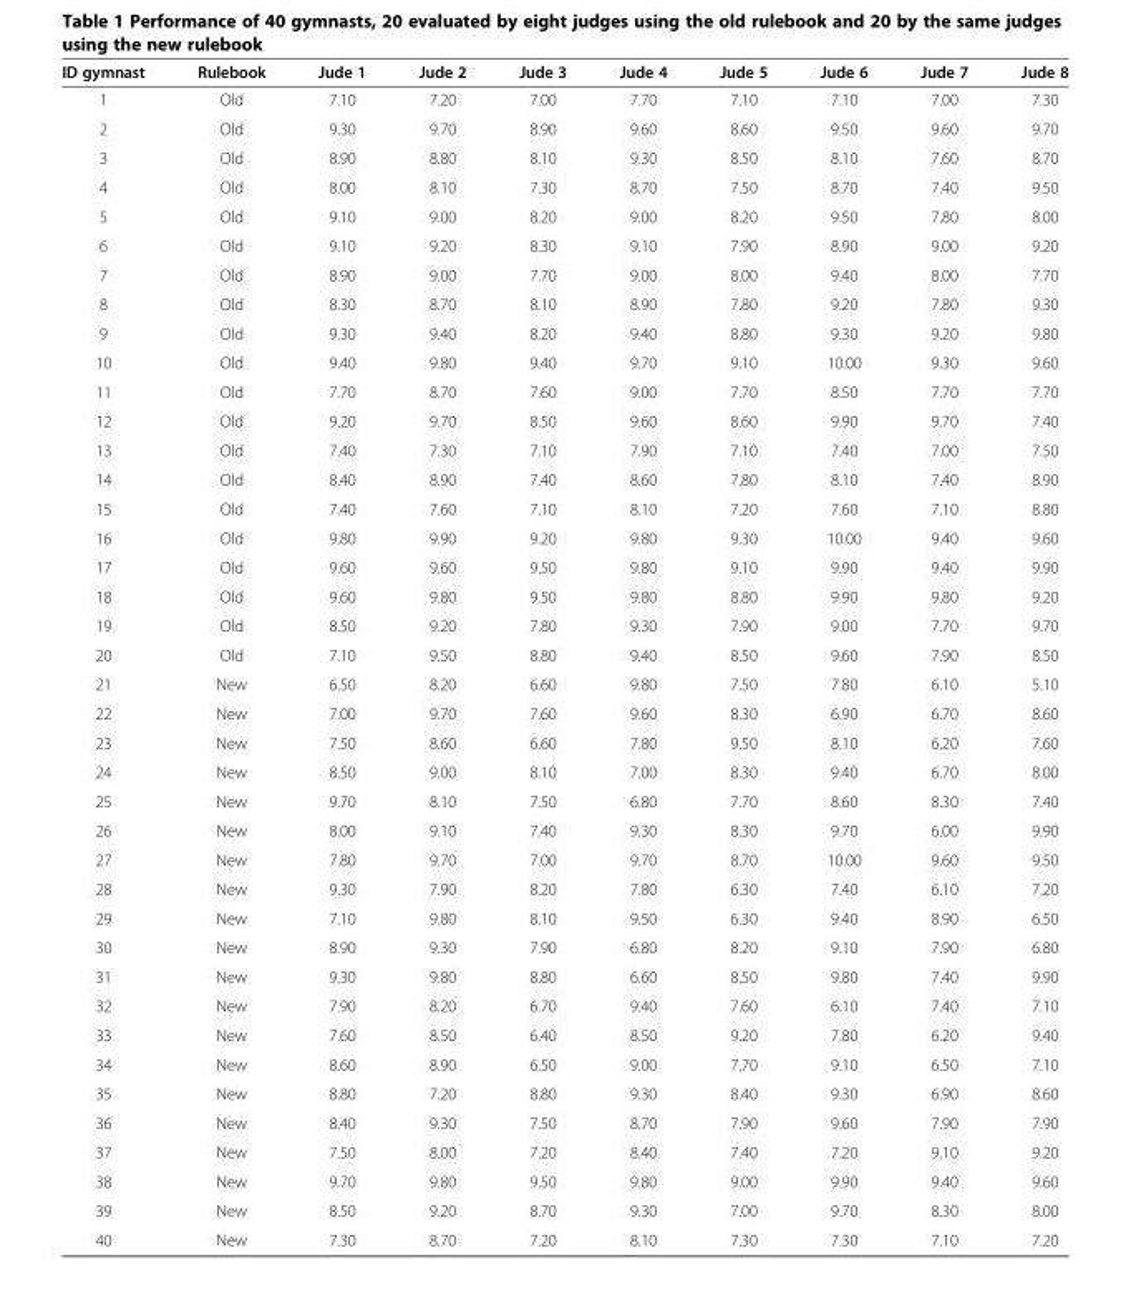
<table><thead><tr><td>ID gymnast</td><td>Rulebook</td><td>Jude 1</td><td>Jude 2</td><td>Jude 3</td><td>Jude 4</td><td>Jude 5</td><td>Jude 6</td><td>Jude 7</td><td>Jude 8</td></tr></thead><tbody><tr><td>1</td><td>Old</td><td>7.10</td><td>7.20</td><td>7.00</td><td>7.70</td><td>7.10</td><td>7.10</td><td>7.00</td><td>7.30</td></tr><tr><td>2</td><td>Old</td><td>9.30</td><td>9.70</td><td>8.90</td><td>9.60</td><td>8.60</td><td>9.50</td><td>9.60</td><td>9.70</td></tr><tr><td>3</td><td>Old</td><td>8.90</td><td>8.80</td><td>8.10</td><td>9.30</td><td>8.50</td><td>8.10</td><td>7.60</td><td>8.70</td></tr><tr><td>4</td><td>Old</td><td>8.00</td><td>8.10</td><td>7.30</td><td>8.70</td><td>7.50</td><td>8.70</td><td>7.40</td><td>9.50</td></tr><tr><td>5</td><td>Old</td><td>9.10</td><td>9.00</td><td>8.20</td><td>9.00</td><td>8.20</td><td>9.50</td><td>7.80</td><td>8.00</td></tr><tr><td>6</td><td>Old</td><td>9.10</td><td>9.20</td><td>8.30</td><td>9.10</td><td>7.90</td><td>8.90</td><td>9.00</td><td>9.20</td></tr><tr><td>7</td><td>Old</td><td>8.90</td><td>9.00</td><td>7.70</td><td>9.00</td><td>8.00</td><td>9.40</td><td>8.00</td><td>7.70</td></tr><tr><td>8</td><td>Old</td><td>8.30</td><td>8.70</td><td>8.10</td><td>8.90</td><td>7.80</td><td>9.20</td><td>7.80</td><td>9.30</td></tr><tr><td>9</td><td>Old</td><td>9.30</td><td>9.40</td><td>8.20</td><td>9.40</td><td>8.80</td><td>9.30</td><td>9.20</td><td>9.80</td></tr><tr><td>10</td><td>Old</td><td>9.40</td><td>9.80</td><td>9.40</td><td>9.70</td><td>9.10</td><td>10.00</td><td>9.30</td><td>9.60</td></tr><tr><td>11</td><td>Old</td><td>7.70</td><td>8.70</td><td>7.60</td><td>9.00</td><td>7.70</td><td>8.50</td><td>7.70</td><td>7.70</td></tr><tr><td>12</td><td>Old</td><td>9.20</td><td>9.70</td><td>8.50</td><td>9.60</td><td>8.60</td><td>9.90</td><td>9.70</td><td>7.40</td></tr><tr><td>13</td><td>Old</td><td>7.40</td><td>7.30</td><td>7.10</td><td>7.90</td><td>7.10</td><td>7.40</td><td>7.00</td><td>7.50</td></tr><tr><td>14</td><td>Old</td><td>8.40</td><td>8.90</td><td>7.40</td><td>8.60</td><td>7.80</td><td>8.10</td><td>7.40</td><td>8.90</td></tr><tr><td>15</td><td>Old</td><td>7.40</td><td>7.60</td><td>7.10</td><td>8.10</td><td>7.20</td><td>7.60</td><td>7.10</td><td>8.80</td></tr><tr><td>16</td><td>Old</td><td>9.80</td><td>9.90</td><td>9.20</td><td>9.80</td><td>9.30</td><td>10.00</td><td>9.40</td><td>9.60</td></tr><tr><td>17</td><td>Old</td><td>9.60</td><td>9.60</td><td>9.50</td><td>9.80</td><td>9.10</td><td>9.90</td><td>9.40</td><td>9.90</td></tr><tr><td>18</td><td>Old</td><td>9.60</td><td>9.80</td><td>9.50</td><td>9.80</td><td>8.80</td><td>9.90</td><td>9.80</td><td>9.20</td></tr><tr><td>19</td><td>Old</td><td>8.50</td><td>9.20</td><td>7.80</td><td>9.30</td><td>7.90</td><td>9.00</td><td>7.70</td><td>9.70</td></tr><tr><td>20</td><td>Old</td><td>7.10</td><td>9.50</td><td>8.80</td><td>9.40</td><td>8.50</td><td>9.60</td><td>7.90</td><td>8.50</td></tr><tr><td>21</td><td>New</td><td>6.50</td><td>8.20</td><td>6.60</td><td>9.80</td><td>7.50</td><td>7.80</td><td>6.10</td><td>5.10</td></tr><tr><td>22</td><td>New</td><td>7.00</td><td>9.70</td><td>7.60</td><td>9.60</td><td>8.30</td><td>6.90</td><td>6.70</td><td>8.60</td></tr><tr><td>23</td><td>New</td><td>7.50</td><td>8.60</td><td>6.60</td><td>7.80</td><td>9.50</td><td>8.10</td><td>6.20</td><td>7.60</td></tr><tr><td>24</td><td>New</td><td>8.50</td><td>9.00</td><td>8.10</td><td>7.00</td><td>8.30</td><td>9.40</td><td>6.70</td><td>8.00</td></tr><tr><td>25</td><td>New</td><td>9.70</td><td>8.10</td><td>7.50</td><td>6.80</td><td>7.70</td><td>8.60</td><td>8.30</td><td>7.40</td></tr><tr><td>26</td><td>New</td><td>8.00</td><td>9.10</td><td>7.40</td><td>9.30</td><td>8.30</td><td>9.70</td><td>6.00</td><td>9.90</td></tr><tr><td>27</td><td>New</td><td>7.80</td><td>9.70</td><td>7.00</td><td>9.70</td><td>8.70</td><td>10.00</td><td>9.60</td><td>9.50</td></tr><tr><td>28</td><td>New</td><td>9.30</td><td>7.90</td><td>8.20</td><td>7.80</td><td>6.30</td><td>7.40</td><td>6.10</td><td>7.20</td></tr><tr><td>29</td><td>New</td><td>7.10</td><td>9.80</td><td>8.10</td><td>9.50</td><td>6.30</td><td>9.40</td><td>8.90</td><td>6.50</td></tr><tr><td>30</td><td>New</td><td>8.90</td><td>9.30</td><td>7.90</td><td>6.80</td><td>8.20</td><td>9.10</td><td>7.90</td><td>6.80</td></tr><tr><td>31</td><td>New</td><td>9.30</td><td>9.80</td><td>8.80</td><td>6.60</td><td>8.50</td><td>9.80</td><td>7.40</td><td>9.90</td></tr><tr><td>32</td><td>New</td><td>7.90</td><td>8.20</td><td>6.70</td><td>9.40</td><td>7.60</td><td>6.10</td><td>7.40</td><td>7.10</td></tr><tr><td>33</td><td>New</td><td>7.60</td><td>8.50</td><td>6.40</td><td>8.50</td><td>9.20</td><td>7.80</td><td>6.20</td><td>9.40</td></tr><tr><td>34</td><td>New</td><td>8.60</td><td>8.90</td><td>6.50</td><td>9.00</td><td>7.70</td><td>9.10</td><td>6.50</td><td>7.10</td></tr><tr><td>35</td><td>New</td><td>8.80</td><td>7.20</td><td>8.80</td><td>9.30</td><td>8.40</td><td>9.30</td><td>6.90</td><td>8.60</td></tr><tr><td>36</td><td>New</td><td>8.40</td><td>9.30</td><td>7.50</td><td>8.70</td><td>7.90</td><td>9.60</td><td>7.90</td><td>7.90</td></tr><tr><td>37</td><td>New</td><td>7.50</td><td>8.00</td><td>7.20</td><td>8.40</td><td>7.40</td><td>7.20</td><td>9.10</td><td>9.20</td></tr><tr><td>38</td><td>New</td><td>9.70</td><td>9.80</td><td>9.50</td><td>9.80</td><td>9.00</td><td>9.90</td><td>9.40</td><td>9.60</td></tr><tr><td>39</td><td>New</td><td>8.50</td><td>9.20</td><td>8.70</td><td>9.30</td><td>7.00</td><td>9.70</td><td>8.30</td><td>8.00</td></tr><tr><td>40</td><td>New</td><td>7.30</td><td>8.70</td><td>7.20</td><td>8.10</td><td>7.30</td><td>7.30</td><td>7.10</td><td>7.20</td></tr></tbody></table>